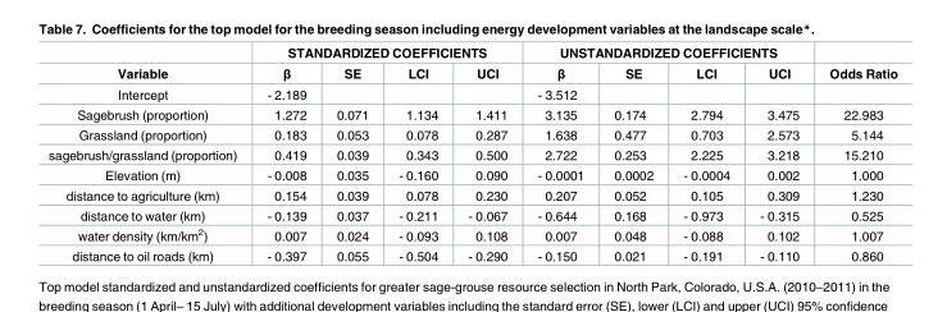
<table><thead><tr><td rowspan="2">Variable</td><td colspan="4">STANDARDIZED COEFFICIENTS</td><td colspan="4">UNSTANDARDIZED COEFFICIENTS</td><td rowspan="2">Odds Ratio</td></tr><tr><td>β</td><td>SE</td><td>LCI</td><td>UCI</td><td>β</td><td>SE</td><td>LCI</td><td>UCI</td></tr></thead><tbody><tr><td>Intercept</td><td>- 2.189</td><td></td><td></td><td></td><td>- 3.512</td><td></td><td></td><td></td><td></td></tr><tr><td>Sagebrush (proportion)</td><td>1.272</td><td>0.071</td><td>1.134</td><td>1.411</td><td>3.135</td><td>0.174</td><td>2.794</td><td>3.475</td><td>22.983</td></tr><tr><td>Grassland (proportion)</td><td>0.183</td><td>0.053</td><td>0.078</td><td>0.287</td><td>1.638</td><td>0.477</td><td>0.703</td><td>2.573</td><td>5.144</td></tr><tr><td>sagebrush/grassland (proportion)</td><td>0.419</td><td>0.039</td><td>0.343</td><td>0.500</td><td>2.722</td><td>0.253</td><td>2.225</td><td>3.218</td><td>15.210</td></tr><tr><td>Elevation (m)</td><td>- 0.008</td><td>0.035</td><td>- 0.160</td><td>0.090</td><td>- 0.0001</td><td>0.0002</td><td>- 0.0004</td><td>0.002</td><td>1.000</td></tr><tr><td>distance to agriculture (km)</td><td>0.154</td><td>0.039</td><td>0.078</td><td>0.230</td><td>0.207</td><td>0.052</td><td>0.105</td><td>0.309</td><td>1.230</td></tr><tr><td>distance to water (km)</td><td>- 0.139</td><td>0.037</td><td>- 0.211</td><td>- 0.067</td><td>- 0.644</td><td>0.168</td><td>- 0.973</td><td>- 0.315</td><td>0.525</td></tr><tr><td>water density (km/km<sup>2</sup>)</td><td>0.007</td><td>0.024</td><td>- 0.093</td><td>0.108</td><td>0.007</td><td>0.048</td><td>- 0.088</td><td>0.102</td><td>1.007</td></tr><tr><td>distance to oil roads (km)</td><td>- 0.397</td><td>0.055</td><td>- 0.504</td><td>- 0.290</td><td>- 0.150</td><td>0.021</td><td>- 0.191</td><td>- 0.110</td><td>0.860</td></tr></tbody></table>